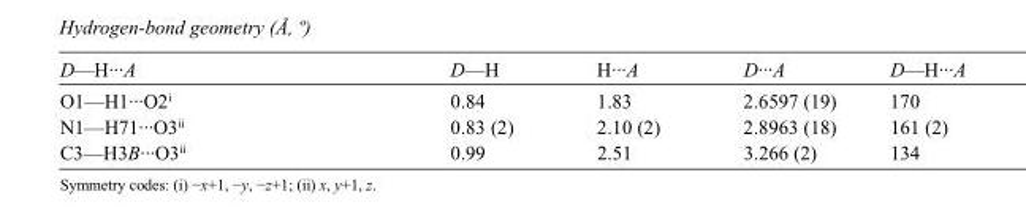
<table><tbody><tr><td>D—H···A</td><td>D—H</td><td>H···A</td><td>D···A</td><td>D—H···A</td></tr><tr><td>O1—H1···O2<sup>i</sup></td><td>0.84</td><td>1.83</td><td>2.6597 (19)</td><td>170</td></tr><tr><td>N1—H71···O3<sup>ii</sup></td><td>0.83 (2)</td><td>2.10 (2)</td><td>2.8963 (18)</td><td>161 (2)</td></tr><tr><td>C3—H3B···O3<sup>ii</sup></td><td>0.99</td><td>2.51</td><td>3.266 (2)</td><td>134</td></tr></tbody></table>